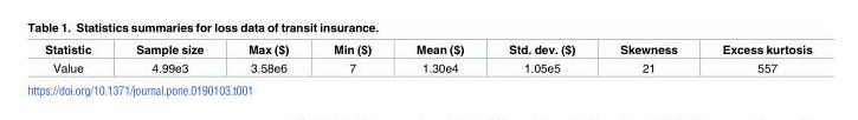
<table><thead><tr><td>Statistic</td><td>Sample size</td><td>Max ($)</td><td>Min ($)</td><td>Mean ($)</td><td>Std. dev. ($)</td><td>Skewness</td><td>Excess kurtosis</td></tr></thead><tbody><tr><td>Value</td><td>4.99e3</td><td>3.58e6</td><td>7</td><td>1.30e4</td><td>1.05e5</td><td>21</td><td>557</td></tr></tbody></table>